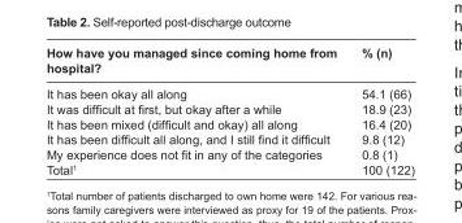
<table><thead><tr><td>How have you managed since coming home from hospital?</td><td>% (n)</td></tr></thead><tbody><tr><td>It has been okay all along</td><td>54.1 (66)</td></tr><tr><td>It was difficult at first, but okay after a while</td><td>18.9 (23)</td></tr><tr><td>It has been mixed (difficult and okay) all along</td><td>16.4 (20)</td></tr><tr><td>It has been difficult all along, and I still find it difficult</td><td>9.8 (12)</td></tr><tr><td>My experience does not fit in any of the categories</td><td>0.8 (1)</td></tr><tr><td>Total<sup>1</sup></td><td>100 (122)</td></tr></tbody></table>